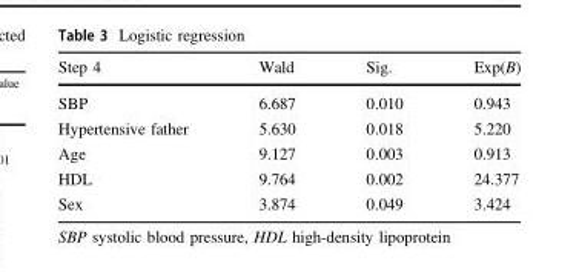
<table><thead><tr><td>Step 4</td><td>Wald</td><td>Sig.</td><td>Exp(B)</td></tr></thead><tbody><tr><td>SBP</td><td>6.687</td><td>0.010</td><td>0.943</td></tr><tr><td>Hypertensive father</td><td>5.630</td><td>0.018</td><td>5.220</td></tr><tr><td>Age</td><td>9.127</td><td>0.003</td><td>0.913</td></tr><tr><td>HDL</td><td>9.764</td><td>0.002</td><td>24.377</td></tr><tr><td>Sex</td><td>3.874</td><td>0.049</td><td>3.424</td></tr></tbody></table>